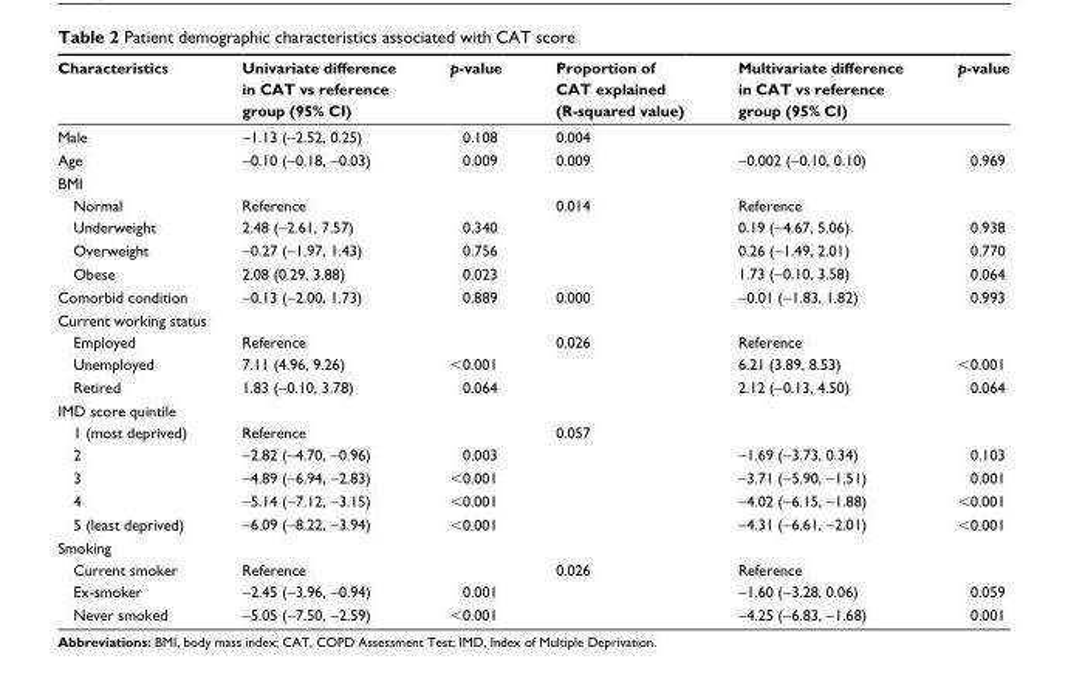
<table><thead><tr><td>Characteristics</td><td>Univariate difference in CAT vs reference group (95% CI)</td><td>p-value</td><td>Proportion of CAT explained (R-squared value)</td><td>Multivariate difference in CAT vs reference group (95% CI)</td><td>p-value</td></tr></thead><tbody><tr><td>Male</td><td>−1.13 (−2.52, 0.25)</td><td>0.108</td><td>0.004</td><td></td><td></td></tr><tr><td>age</td><td>−0.10 (−0.18, −0.03)</td><td>0.009</td><td>0.009</td><td>−0.002 (−0.10, 0.10)</td><td>0.969</td></tr><tr><td colspan="6">BMI</td></tr><tr><td>normal</td><td>reference</td><td></td><td>0.014</td><td>reference</td><td></td></tr><tr><td>Underweight</td><td>2.48 (−2.61, 7.57)</td><td>0.340</td><td></td><td>0.19 (−4.67, 5.06)</td><td>0.938</td></tr><tr><td>Overweight</td><td>−0.27 (−1.97, 1.43)</td><td>0.756</td><td></td><td>0.26 (−1.49, 2.01)</td><td>0.770</td></tr><tr><td>Obese</td><td>2.08 (0.29, 3.88)</td><td>0.023</td><td></td><td>1.73 (−0.10, 3.58)</td><td>0.064</td></tr><tr><td>Comorbid condition</td><td>−0.13 (−2.00, 1.73)</td><td>0.889</td><td>0.000</td><td>−0.01 (−1.83, 1.82)</td><td>0.993</td></tr><tr><td colspan="6">Current working status</td></tr><tr><td>employed</td><td>reference</td><td></td><td>0.026</td><td>reference</td><td></td></tr><tr><td>Unemployed</td><td>7.11 (4.96, 9.26)</td><td>&lt;0.001</td><td></td><td>6.21 (3.89, 8.53)</td><td>&lt;0.001</td></tr><tr><td>retired</td><td>1.83 (−0.10, 3.78)</td><td>0.064</td><td></td><td>2.12 (−0.13, 4.50)</td><td>0.064</td></tr><tr><td colspan="6">IMD score quintile</td></tr><tr><td>1 (most deprived)</td><td>reference</td><td></td><td>0.057</td><td></td><td></td></tr><tr><td>2</td><td>−2.82 (−4.70, −0.96)</td><td>0.003</td><td></td><td>−1.69 (−3.73, 0.34)</td><td>0.103</td></tr><tr><td>3</td><td>−4.89 (−6.94, −2.83)</td><td>&lt;0.001</td><td></td><td>−3.71 (−5.90, −1.51)</td><td>0.001</td></tr><tr><td>4</td><td>−5.14 (−7.12, −3.15)</td><td>&lt;0.001</td><td></td><td>−4.02 (−6.15, −1.88)</td><td>&lt;0.001</td></tr><tr><td>5 (least deprived)</td><td>−6.09 (−8.22, −3.94)</td><td>&lt;0.001</td><td></td><td>−4.31 (−6.61, −2.01)</td><td>&lt;0.001</td></tr><tr><td colspan="6">smoking</td></tr><tr><td>Current smoker</td><td>reference</td><td></td><td>0.026</td><td>reference</td><td></td></tr><tr><td>ex-smoker</td><td>−2.45 (−3.96, −0.94)</td><td>0.001</td><td></td><td>−1.60 (−3.28, 0.06)</td><td>0.059</td></tr><tr><td>never smoked</td><td>−5.05 (−7.50, −2.59)</td><td>&lt;0.001</td><td></td><td>−4.25 (−6.83, −1.68)</td><td>0.001</td></tr></tbody></table>